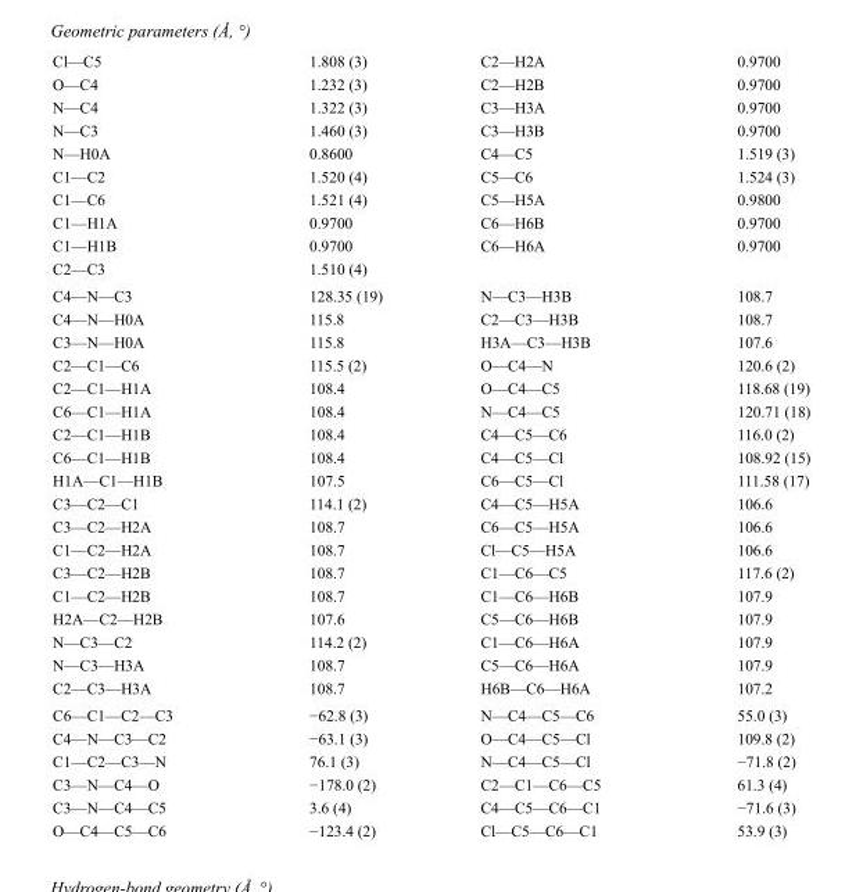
<table><tbody><tr><td>Cl—C5</td><td>1.808 (3)</td><td>C2—H2A</td><td>0.9700</td></tr><tr><td>O—C4</td><td>1.232 (3)</td><td>C2—H2B</td><td>0.9700</td></tr><tr><td>N—C4</td><td>1.322 (3)</td><td>C3—H3A</td><td>0.9700</td></tr><tr><td>N—C3</td><td>1.460 (3)</td><td>C3—H3B</td><td>0.9700</td></tr><tr><td>N—H0A</td><td>0.8600</td><td>C4—C5</td><td>1.519 (3)</td></tr><tr><td>C1—C2</td><td>1.520 (4)</td><td>C5—C6</td><td>1.524 (3)</td></tr><tr><td>C1—C6</td><td>1.521 (4)</td><td>C5—H5A</td><td>0.9800</td></tr><tr><td>C1—H1A</td><td>0.9700</td><td>C6—H6B</td><td>0.9700</td></tr><tr><td>C1—H1B</td><td>0.9700</td><td>C6—H6A</td><td>0.9700</td></tr><tr><td>C2—C3</td><td>1.510 (4)</td><td></td><td></td></tr><tr><td>C4—N—C3</td><td>128.35 (19)</td><td>N—C3—H3B</td><td>108.7</td></tr><tr><td>C4—N—H0A</td><td>115.8</td><td>C2—C3—H3B</td><td>108.7</td></tr><tr><td>C3—N—H0A</td><td>115.8</td><td>H3A—C3—H3B</td><td>107.6</td></tr><tr><td>C2—C1—C6</td><td>115.5 (2)</td><td>O—C4—N</td><td>120.6 (2)</td></tr><tr><td>C2—C1—H1A</td><td>108.4</td><td>O—C4—C5</td><td>118.68 (19)</td></tr><tr><td>C6—C1—H1A</td><td>108.4</td><td>N—C4—C5</td><td>120.71 (18)</td></tr><tr><td>C2—C1—H1B</td><td>108.4</td><td>C4—C5—C6</td><td>116.0 (2)</td></tr><tr><td>C6—C1—H1B</td><td>108.4</td><td>C4—C5—Cl</td><td>108.92 (15)</td></tr><tr><td>H1A—C1—H1B</td><td>107.5</td><td>C6—C5—Cl</td><td>111.58 (17)</td></tr><tr><td>C3—C2—C1</td><td>114.1 (2)</td><td>C4—C5—H5A</td><td>106.6</td></tr><tr><td>C3—C2—H2A</td><td>108.7</td><td>C6—C5—H5A</td><td>106.6</td></tr><tr><td>C1—C2—H2A</td><td>108.7</td><td>Cl—C5—H5A</td><td>106.6</td></tr><tr><td>C3—C2—H2B</td><td>108.7</td><td>C1—C6—C5</td><td>117.6 (2)</td></tr><tr><td>C1—C2—H2B</td><td>108.7</td><td>C1—C6—H6B</td><td>107.9</td></tr><tr><td>H2A—C2—H2B</td><td>107.6</td><td>C5—C6—H6B</td><td>107.9</td></tr><tr><td>N—C3—C2</td><td>114.2 (2)</td><td>C1—C6—H6A</td><td>107.9</td></tr><tr><td>N—C3—H3A</td><td>108.7</td><td>C5—C6—H6A</td><td>107.9</td></tr><tr><td>C2—C3—H3A</td><td>108.7</td><td>H6B—C6—H6A</td><td>107.2</td></tr><tr><td>C6—C1—C2—C3</td><td>−62.8 (3)</td><td>N—C4—C5—C6</td><td>55.0 (3)</td></tr><tr><td>C4—N—C3—C2</td><td>−63.1 (3)</td><td>O—C4—C5—Cl</td><td>109.8 (2)</td></tr><tr><td>C1—C2—C3—N</td><td>76.1 (3)</td><td>N—C4—C5—Cl</td><td>−71.8 (2)</td></tr><tr><td>C3—N—C4—O</td><td>−178.0 (2)</td><td>C2—C1—C6—C5</td><td>61.3 (4)</td></tr><tr><td>C3—N—C4—C5</td><td>3.6 (4)</td><td>C4—C5—C6—C1</td><td>−71.6 (3)</td></tr><tr><td>O—C4—C5—C6</td><td>−123.4 (2)</td><td>Cl—C5—C6—C1</td><td>53.9 (3)</td></tr></tbody></table>